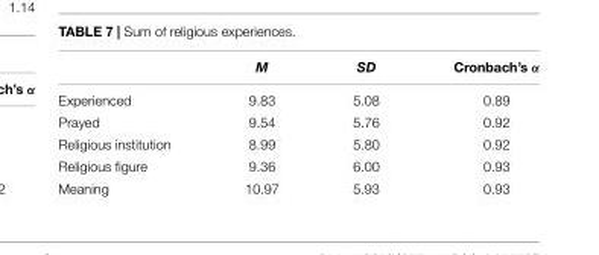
<table><thead><tr><td></td><td>M</td><td>SD</td><td>Cronbach’s α</td></tr></thead><tbody><tr><td>Experienced</td><td>9.83</td><td>5.08</td><td>0.89</td></tr><tr><td>Prayed</td><td>9.54</td><td>5.76</td><td>0.92</td></tr><tr><td>Religious institution</td><td>8.99</td><td>5.80</td><td>0.92</td></tr><tr><td>Religious figure</td><td>9.36</td><td>6.00</td><td>0.93</td></tr><tr><td>Meaning</td><td>10.97</td><td>5.93</td><td>0.93</td></tr></tbody></table>